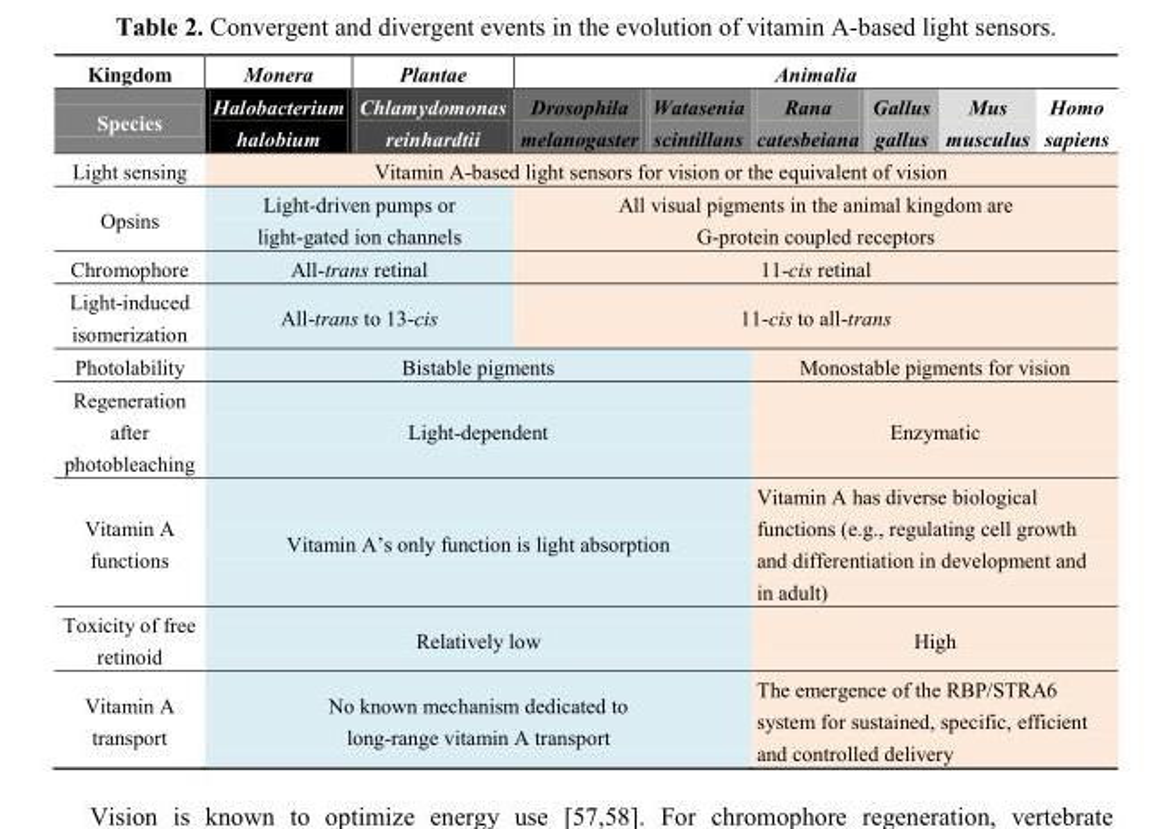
<table><thead><tr><td rowspan="2">Kingdom Species</td><td rowspan="2">Monera Halobacterium halobium</td><td rowspan="2">Plantae Chlamydomonas reinhardtii</td><td colspan="6">Animalia</td></tr><tr><td>Drosophila melanogaster</td><td>Watasenia scintillans</td><td>Rana catesbeiana</td><td>Gallus gallus</td><td>Mus musculus</td><td>Homo sapiens</td></tr></thead><tbody><tr><td>Light sensing</td><td colspan="8">Vitamin A-based light sensors for vision or the equivalent of vision</td></tr><tr><td>Opsins</td><td colspan="2">Light-driven pumps or light-gated ion channels</td><td colspan="6">All visual pigments in the animal kingdom are G-protein coupled receptors</td></tr><tr><td>Chromophore</td><td colspan="2">All-trans retinal</td><td colspan="6">11-cis retinal</td></tr><tr><td>Light-induced isomerization</td><td colspan="2">All-trans to 13-cis</td><td colspan="6">11-cis to all-trans</td></tr><tr><td>Photolability</td><td colspan="4">Bistable pigments</td><td colspan="4">Monostable pigments for vision</td></tr><tr><td>Regeneration after photobleaching</td><td colspan="4">Light-dependent</td><td colspan="4">Enzymatic</td></tr><tr><td>Vitamin A functions</td><td colspan="4">Vitamin A’s only function is light absorption</td><td colspan="4">Vitamin A has diverse biological functions (e.g., regulating cell growth and differentiation in development and in adult)</td></tr><tr><td>Toxicity of free retinoid</td><td colspan="4">Relatively low</td><td colspan="4">High</td></tr><tr><td>Vitamin A transport</td><td colspan="4">No known mechanism dedicated to long-range vitamin A transport</td><td colspan="4">The emergence of the RBP/STRA6 system for sustained, specific, efficient and controlled delivery</td></tr></tbody></table>